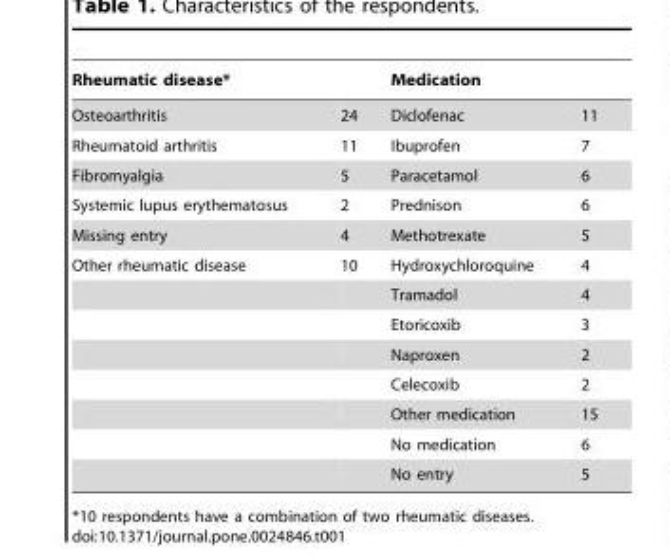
<table><thead><tr><td colspan="2">Rheumatic disease*</td><td colspan="2">Medication</td></tr><tr><td>Osteoarthritis</td><td>24</td><td>Diclofenac</td><td>11</td></tr></thead><tbody><tr><td>Rheumatoid arthritis</td><td>11</td><td>Ibuprofen</td><td>7</td></tr><tr><td>Fibromyalgia</td><td>5</td><td>Paracetamol</td><td>6</td></tr><tr><td>Systemic lupus erythematosus</td><td>2</td><td>Prednison</td><td>6</td></tr><tr><td>Missing entry</td><td>4</td><td>Methotrexate</td><td>5</td></tr><tr><td rowspan="8">Other rheumatic disease</td><td>10</td><td>Hydroxychloroquine</td><td>4</td></tr><tr><td></td><td>Tramadol</td><td>4</td></tr><tr><td></td><td>Etoricoxib</td><td>3</td></tr><tr><td></td><td>Naproxen</td><td>2</td></tr><tr><td></td><td>Celecoxib</td><td>2</td></tr><tr><td></td><td>Other medication</td><td>15</td></tr><tr><td></td><td>No medication</td><td>6</td></tr><tr><td></td><td>No entry</td><td>5</td></tr></tbody></table>